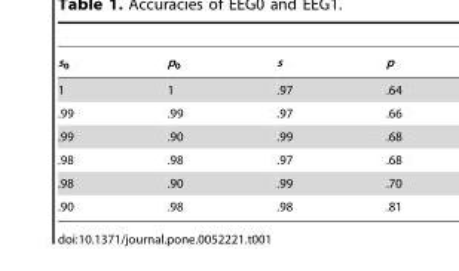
<table><thead><tr><td>s<sub>0</sub></td><td>p<sub>0</sub></td><td>s</td><td>p</td></tr></thead><tbody><tr><td>1</td><td>1</td><td>.97</td><td>.64</td></tr><tr><td>.99</td><td>.99</td><td>.97</td><td>.66</td></tr><tr><td>.99</td><td>.90</td><td>.99</td><td>.68</td></tr><tr><td>.98</td><td>.98</td><td>.97</td><td>.68</td></tr><tr><td>.98</td><td>.90</td><td>.99</td><td>.70</td></tr><tr><td>.90</td><td>.98</td><td>.98</td><td>.81</td></tr></tbody></table>